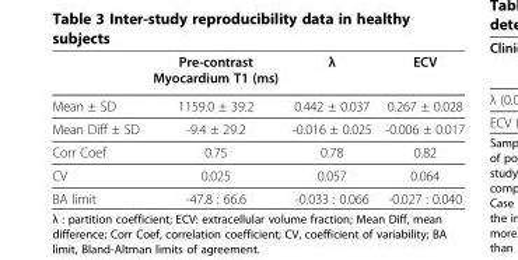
<table><thead><tr><td></td><td>Pre-contrast Myocardium T1 (ms)</td><td>λ</td><td>ECV</td></tr></thead><tbody><tr><td>Mean ± SD</td><td>1159.0 ± 39.2</td><td>0.442 ± 0.037</td><td>0.267 ± 0.028</td></tr><tr><td>Mean Diff ± SD</td><td>-9.4 ± 29.2</td><td>-0.016 ± 0.025</td><td>-0.006 ± 0.017</td></tr><tr><td>Corr Coef</td><td>0.75</td><td>0.78</td><td>0.82</td></tr><tr><td>CV</td><td>0.025</td><td>0.057</td><td>0.064</td></tr><tr><td>BA limit</td><td>-47.8 : 66.6</td><td>-0.033 : 0.066</td><td>-0.027 : 0.040</td></tr></tbody></table>